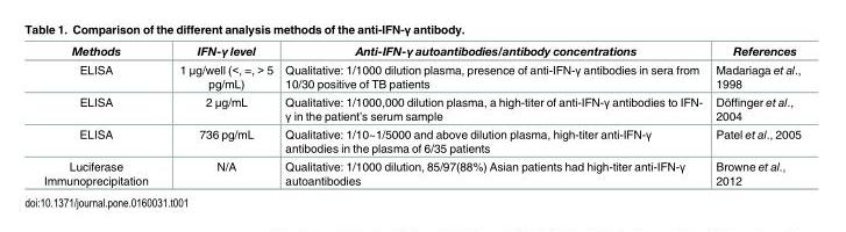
<table><thead><tr><td>Methods</td><td>IFN-γ level</td><td>Anti-IFN-γ autoantibodies/antibody concentrations</td><td>References</td></tr></thead><tbody><tr><td>ELISA</td><td>1 μg/well (&lt;, =, &gt; 5 pg/mL)</td><td>Qualitative: 1/1000 dilution plasma, presence of anti-IFN-γ antibodies in sera from 10/30 positive of TB patients</td><td>Madariaga et al., 1998</td></tr><tr><td>ELISA</td><td>2 μg/mL</td><td>Qualitative: 1/1000,000 dilution plasma, a high-titer of anti-IFN-γ antibodies to IFN- γ in the patient’s serum sample</td><td>Döffinger et al., 2004</td></tr><tr><td>ELISA</td><td>736 pg/mL</td><td>Qualitative: 1/10~1/5000 and above dilution plasma, high-titer anti-IFN-γ antibodies in the plasma of 6/35 patients</td><td>Patel et al., 2005</td></tr><tr><td>Luciferase Immunoprecipitation</td><td>N/A</td><td>Qualitative: 1/1000 dilution, 85/97(88%) Asian patients had high-titer anti-IFN-γ autoantibodies</td><td>Browne et al., 2012</td></tr></tbody></table>